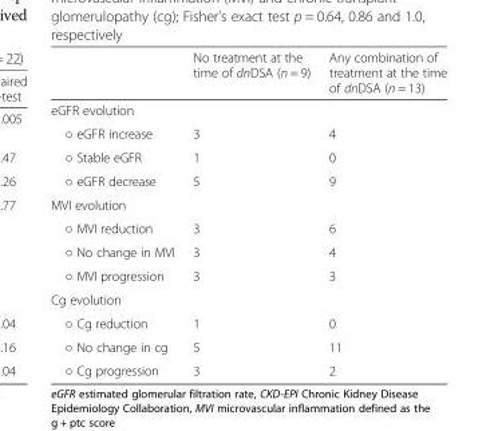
<table><thead><tr><td></td><td>No treatment at the time of dnDSA (n = 9)</td><td>Any combination of treatment at the time of dnDSA (n = 13)</td></tr></thead><tbody><tr><td colspan="3">eGFR evolution</td></tr><tr><td>○ eGFR increase</td><td>3</td><td>4</td></tr><tr><td>○ Stable eGFR</td><td>1</td><td>0</td></tr><tr><td>○ eGFR decrease</td><td>5</td><td>9</td></tr><tr><td colspan="3">MVI evolution</td></tr><tr><td>○ MVI reduction</td><td>3</td><td>6</td></tr><tr><td>○ No change in MVI</td><td>3</td><td>4</td></tr><tr><td>○ MVI progression</td><td>3</td><td>3</td></tr><tr><td colspan="3">Cg evolution</td></tr><tr><td>○ Cg reduction</td><td>1</td><td>0</td></tr><tr><td>○ No change in cg</td><td>5</td><td>11</td></tr><tr><td>○ Cg progression</td><td>3</td><td>2</td></tr></tbody></table>